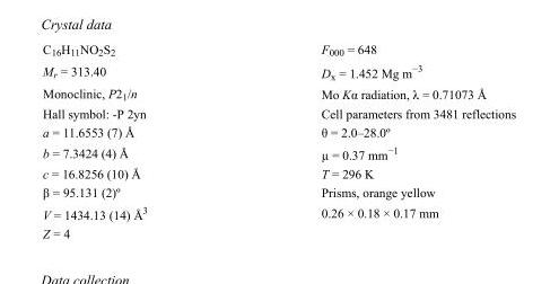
<table><tbody><tr><td>C<sub>16</sub>H<sub>11</sub>NO<sub>2</sub>S<sub>2</sub></td><td>F000 = 648</td></tr><tr><td>M<sub>r</sub> = 313.40</td><td>D<sub>x</sub> = 1.452 Mg m<sup>−3</sup></td></tr><tr><td>Monoclinic, P2<sub>1</sub>/n</td><td>Mo Kα radiation, λ = 0.71073 Å</td></tr><tr><td>Hall symbol: -P 2yn</td><td>Cell parameters from 3481 reflections</td></tr><tr><td>a = 11.6553 (7) Å</td><td>θ = 2.0–28.0º</td></tr><tr><td>b = 7.3424 (4) Å</td><td>µ = 0.37 mm<sup>−1</sup></td></tr><tr><td>c = 16.8256 (10) Å</td><td>T = 296 K</td></tr><tr><td>β = 95.131 (2)º</td><td>Prisms, orange yellow</td></tr><tr><td>V = 1434.13 (14) Å<sup>3</sup></td><td>0.26 × 0.18 × 0.17 mm</td></tr><tr><td>Z = 4</td><td></td></tr></tbody></table>